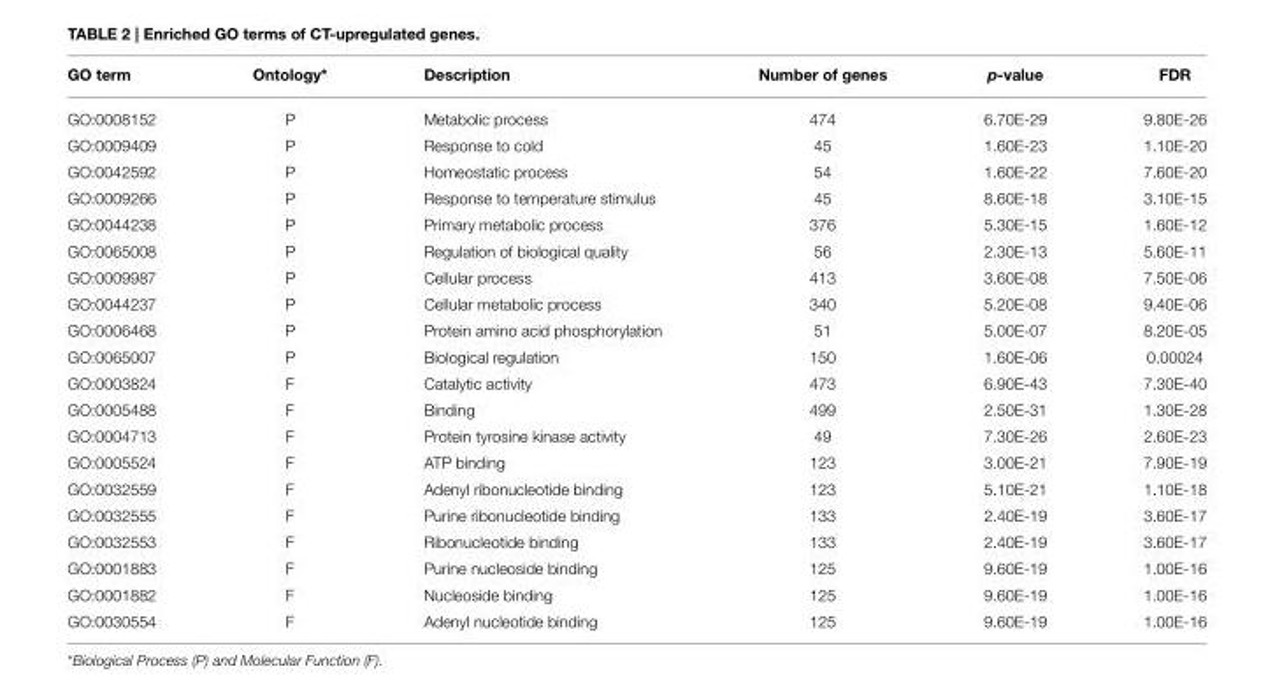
<table><thead><tr><td>GO term</td><td>Ontology*</td><td>Description</td><td>Number of genes</td><td>p-value</td><td>FDR</td></tr></thead><tbody><tr><td>GO:0008152</td><td>P</td><td>Metabolic process</td><td>474</td><td>6.70E-29</td><td>9.80E-26</td></tr><tr><td>GO:0009409</td><td>P</td><td>Response to cold</td><td>45</td><td>1.60E-23</td><td>1.10E-20</td></tr><tr><td>GO:0042592</td><td>P</td><td>Homeostatic process</td><td>54</td><td>1.60E-22</td><td>7.60E-20</td></tr><tr><td>GO:0009266</td><td>P</td><td>Response to temperature stimulus</td><td>45</td><td>8.60E-18</td><td>3.10E-15</td></tr><tr><td>GO:0044238</td><td>P</td><td>Primary metabolic process</td><td>376</td><td>5.30E-15</td><td>1.60E-12</td></tr><tr><td>GO:0065008</td><td>P</td><td>Regulation of biological quality</td><td>56</td><td>2.30E-13</td><td>5.60E-11</td></tr><tr><td>GO:0009987</td><td>P</td><td>Cellular process</td><td>413</td><td>3.60E-08</td><td>7.50E-06</td></tr><tr><td>GO:0044237</td><td>P</td><td>Cellular metabolic process</td><td>340</td><td>5.20E-08</td><td>9.40E-06</td></tr><tr><td>GO:0006468</td><td>P</td><td>Protein amino acid phosphorylation</td><td>51</td><td>5.00E-07</td><td>8.20E-05</td></tr><tr><td>GO:0065007</td><td>P</td><td>Biological regulation</td><td>150</td><td>1.60E-06</td><td>0.00024</td></tr><tr><td>GO:0003824</td><td>F</td><td>Catalytic activity</td><td>473</td><td>6.90E-43</td><td>7.30E-40</td></tr><tr><td>GO:0005488</td><td>F</td><td>Binding</td><td>499</td><td>2.50E-31</td><td>1.30E-28</td></tr><tr><td>GO:0004713</td><td>F</td><td>Protein tyrosine kinase activity</td><td>49</td><td>7.30E-26</td><td>2.60E-23</td></tr><tr><td>GO:0005524</td><td>F</td><td>ATP binding</td><td>123</td><td>3.00E-21</td><td>7.90E-19</td></tr><tr><td>GO:0032559</td><td>F</td><td>Adenyl ribonucleotide binding</td><td>123</td><td>5.10E-21</td><td>1.10E-18</td></tr><tr><td>GO:0032555</td><td>F</td><td>Purine ribonucleotide binding</td><td>133</td><td>2.40E-19</td><td>3.60E-17</td></tr><tr><td>GO:0032553</td><td>F</td><td>Ribonucleotide binding</td><td>133</td><td>2.40E-19</td><td>3.60E-17</td></tr><tr><td>GO:0001883</td><td>F</td><td>Purine nucleoside binding</td><td>125</td><td>9.60E-19</td><td>1.00E-16</td></tr><tr><td>GO:0001882</td><td>F</td><td>Nucleoside binding</td><td>125</td><td>9.60E-19</td><td>1.00E-16</td></tr><tr><td>GO:0030554</td><td>F</td><td>Adenyl nucleotide binding</td><td>125</td><td>9.60E-19</td><td>1.00E-16</td></tr></tbody></table>